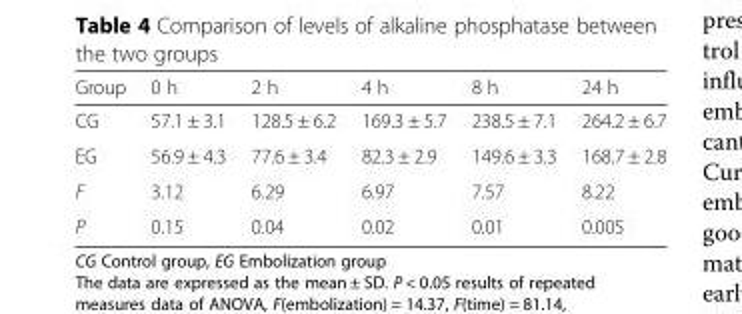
<table><thead><tr><td>Group</td><td>0 h</td><td>2 h</td><td>4 h</td><td>8 h</td><td>24 h</td></tr></thead><tbody><tr><td>CG</td><td>57.1 ± 3.1</td><td>128.5 ± 6.2</td><td>169.3 ± 5.7</td><td>238.5 ± 7.1</td><td>264.2 ± 6.7</td></tr><tr><td>EG</td><td>56.9 ± 4.3</td><td>77.6 ± 3.4</td><td>82.3 ± 2.9</td><td>149.6 ± 3.3</td><td>168.7 ± 2.8</td></tr><tr><td>F</td><td>3.12</td><td>6.29</td><td>6.97</td><td>7.57</td><td>8.22</td></tr><tr><td>P</td><td>0.15</td><td>0.04</td><td>0.02</td><td>0.01</td><td>0.005</td></tr></tbody></table>